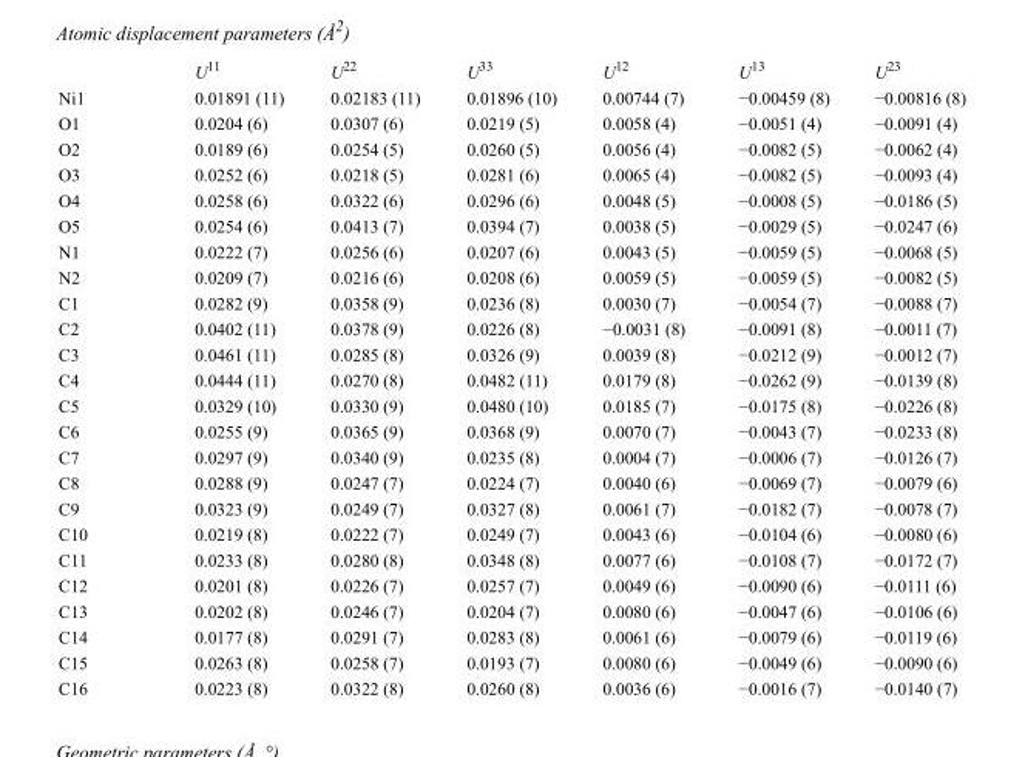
<table><thead><tr><td></td><td>U<sup>11</sup></td><td>U<sup>22</sup></td><td>U<sup>33</sup></td><td>U<sup>12</sup></td><td>U<sup>13</sup></td><td>U<sup>23</sup></td></tr></thead><tbody><tr><td>Ni1</td><td>0.01891 (11)</td><td>0.02183 (11)</td><td>0.01896 (10)</td><td>0.00744 (7)</td><td>−0.00459 (8)</td><td>−0.00816 (8)</td></tr><tr><td>O1</td><td>0.0204 (6)</td><td>0.0307 (6)</td><td>0.0219 (5)</td><td>0.0058 (4)</td><td>−0.0051 (4)</td><td>−0.0091 (4)</td></tr><tr><td>O2</td><td>0.0189 (6)</td><td>0.0254 (5)</td><td>0.0260 (5)</td><td>0.0056 (4)</td><td>−0.0082 (5)</td><td>−0.0062 (4)</td></tr><tr><td>O3</td><td>0.0252 (6)</td><td>0.0218 (5)</td><td>0.0281 (6)</td><td>0.0065 (4)</td><td>−0.0082 (5)</td><td>−0.0093 (4)</td></tr><tr><td>O4</td><td>0.0258 (6)</td><td>0.0322 (6)</td><td>0.0296 (6)</td><td>0.0048 (5)</td><td>−0.0008 (5)</td><td>−0.0186 (5)</td></tr><tr><td>O5</td><td>0.0254 (6)</td><td>0.0413 (7)</td><td>0.0394 (7)</td><td>0.0038 (5)</td><td>−0.0029 (5)</td><td>−0.0247 (6)</td></tr><tr><td>N1</td><td>0.0222 (7)</td><td>0.0256 (6)</td><td>0.0207 (6)</td><td>0.0043 (5)</td><td>−0.0059 (5)</td><td>−0.0068 (5)</td></tr><tr><td>N2</td><td>0.0209 (7)</td><td>0.0216 (6)</td><td>0.0208 (6)</td><td>0.0059 (5)</td><td>−0.0059 (5)</td><td>−0.0082 (5)</td></tr><tr><td>C1</td><td>0.0282 (9)</td><td>0.0358 (9)</td><td>0.0236 (8)</td><td>0.0030 (7)</td><td>−0.0054 (7)</td><td>−0.0088 (7)</td></tr><tr><td>C2</td><td>0.0402 (11)</td><td>0.0378 (9)</td><td>0.0226 (8)</td><td>−0.0031 (8)</td><td>−0.0091 (8)</td><td>−0.0011 (7)</td></tr><tr><td>C3</td><td>0.0461 (11)</td><td>0.0285 (8)</td><td>0.0326 (9)</td><td>0.0039 (8)</td><td>−0.0212 (9)</td><td>−0.0012 (7)</td></tr><tr><td>C4</td><td>0.0444 (11)</td><td>0.0270 (8)</td><td>0.0482 (11)</td><td>0.0179 (8)</td><td>−0.0262 (9)</td><td>−0.0139 (8)</td></tr><tr><td>C5</td><td>0.0329 (10)</td><td>0.0330 (9)</td><td>0.0480 (10)</td><td>0.0185 (7)</td><td>−0.0175 (8)</td><td>−0.0226 (8)</td></tr><tr><td>C6</td><td>0.0255 (9)</td><td>0.0365 (9)</td><td>0.0368 (9)</td><td>0.0070 (7)</td><td>−0.0043 (7)</td><td>−0.0233 (8)</td></tr><tr><td>C7</td><td>0.0297 (9)</td><td>0.0340 (9)</td><td>0.0235 (8)</td><td>0.0004 (7)</td><td>−0.0006 (7)</td><td>−0.0126 (7)</td></tr><tr><td>C8</td><td>0.0288 (9)</td><td>0.0247 (7)</td><td>0.0224 (7)</td><td>0.0040 (6)</td><td>−0.0069 (7)</td><td>−0.0079 (6)</td></tr><tr><td>C9</td><td>0.0323 (9)</td><td>0.0249 (7)</td><td>0.0327 (8)</td><td>0.0061 (7)</td><td>−0.0182 (7)</td><td>−0.0078 (7)</td></tr><tr><td>C10</td><td>0.0219 (8)</td><td>0.0222 (7)</td><td>0.0249 (7)</td><td>0.0043 (6)</td><td>−0.0104 (6)</td><td>−0.0080 (6)</td></tr><tr><td>C11</td><td>0.0233 (8)</td><td>0.0280 (8)</td><td>0.0348 (8)</td><td>0.0077 (6)</td><td>−0.0108 (7)</td><td>−0.0172 (7)</td></tr><tr><td>C12</td><td>0.0201 (8)</td><td>0.0226 (7)</td><td>0.0257 (7)</td><td>0.0049 (6)</td><td>−0.0090 (6)</td><td>−0.0111 (6)</td></tr><tr><td>C13</td><td>0.0202 (8)</td><td>0.0246 (7)</td><td>0.0204 (7)</td><td>0.0080 (6)</td><td>−0.0047 (6)</td><td>−0.0106 (6)</td></tr><tr><td>C14</td><td>0.0177 (8)</td><td>0.0291 (7)</td><td>0.0283 (8)</td><td>0.0061 (6)</td><td>−0.0079 (6)</td><td>−0.0119 (6)</td></tr><tr><td>C15</td><td>0.0263 (8)</td><td>0.0258 (7)</td><td>0.0193 (7)</td><td>0.0080 (6)</td><td>−0.0049 (6)</td><td>−0.0090 (6)</td></tr><tr><td>C16</td><td>0.0223 (8)</td><td>0.0322 (8)</td><td>0.0260 (8)</td><td>0.0036 (6)</td><td>−0.0016 (7)</td><td>−0.0140 (7)</td></tr></tbody></table>